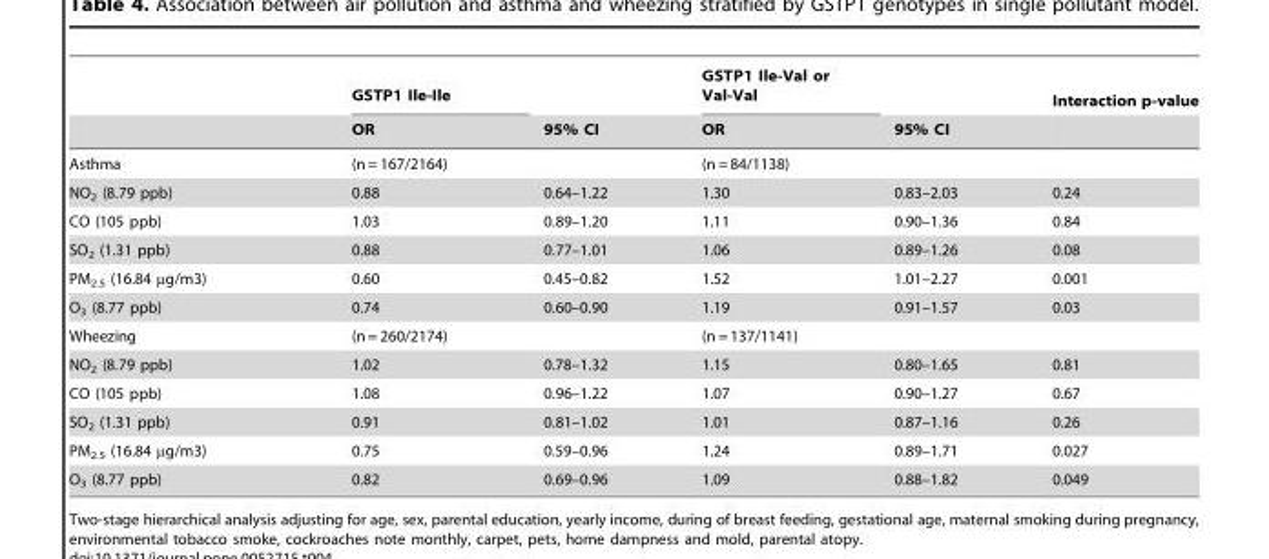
<table><thead><tr><td rowspan="2"></td><td rowspan="2">GSTP1 Ile-Ile OR</td><td rowspan="2">95% CI</td><td rowspan="2">GSTP1 Ile-Val or Val-Val OR</td><td rowspan="2">95% CI</td><td rowspan="2">Interaction p-value</td></tr><tr></tr></thead><tbody><tr><td>Asthma</td><td>(n = 167/2164)</td><td></td><td>(n = 84/1138)</td><td></td><td></td></tr><tr><td>NO<sub>2</sub> (8.79 ppb)</td><td>0.88</td><td>0.64–1.22</td><td>1.30</td><td>0.83–2.03</td><td>0.24</td></tr><tr><td>CO (105 ppb)</td><td>1.03</td><td>0.89–1.20</td><td>1.11</td><td>0.90–1.36</td><td>0.84</td></tr><tr><td>SO<sub>2</sub> (1.31 ppb)</td><td>0.88</td><td>0.77–1.01</td><td>1.06</td><td>0.89–1.26</td><td>0.08</td></tr><tr><td>PM<sub>2.5</sub> (16.84 µg/m3)</td><td>0.60</td><td>0.45–0.82</td><td>1.52</td><td>1.01–2.27</td><td>0.001</td></tr><tr><td>O<sub>3</sub> (8.77 ppb)</td><td>0.74</td><td>0.60–0.90</td><td>1.19</td><td>0.91–1.57</td><td>0.03</td></tr><tr><td>Wheezing</td><td>(n = 260/2174)</td><td></td><td>(n = 137/1141)</td><td></td><td></td></tr><tr><td>NO<sub>2</sub> (8.79 ppb)</td><td>1.02</td><td>0.78–1.32</td><td>1.15</td><td>0.80–1.65</td><td>0.81</td></tr><tr><td>CO (105 ppb)</td><td>1.08</td><td>0.96–1.22</td><td>1.07</td><td>0.90–1.27</td><td>0.67</td></tr><tr><td>SO<sub>2</sub> (1.31 ppb)</td><td>0.91</td><td>0.81–1.02</td><td>1.01</td><td>0.87–1.16</td><td>0.26</td></tr><tr><td>PM<sub>2.5</sub> (16.84 µg/m3)</td><td>0.75</td><td>0.59–0.96</td><td>1.24</td><td>0.89–1.71</td><td>0.027</td></tr><tr><td>O<sub>3</sub> (8.77 ppb)</td><td>0.82</td><td>0.69–0.96</td><td>1.09</td><td>0.88–1.82</td><td>0.049</td></tr></tbody></table>